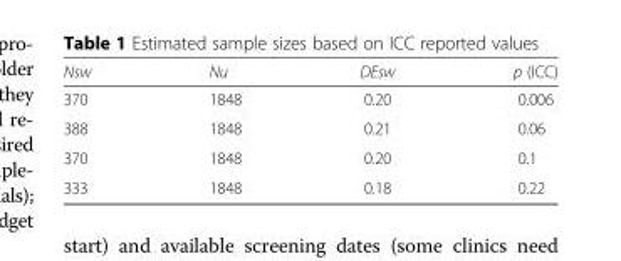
<table><thead><tr><td>Nsw</td><td>Nu</td><td>DEsw</td><td>p (ICC)</td></tr></thead><tbody><tr><td>370</td><td>1848</td><td>0.20</td><td>0.006</td></tr><tr><td>388</td><td>1848</td><td>0.21</td><td>0.06</td></tr><tr><td>370</td><td>1848</td><td>0.20</td><td>0.1</td></tr><tr><td>333</td><td>1848</td><td>0.18</td><td>0.22</td></tr></tbody></table>